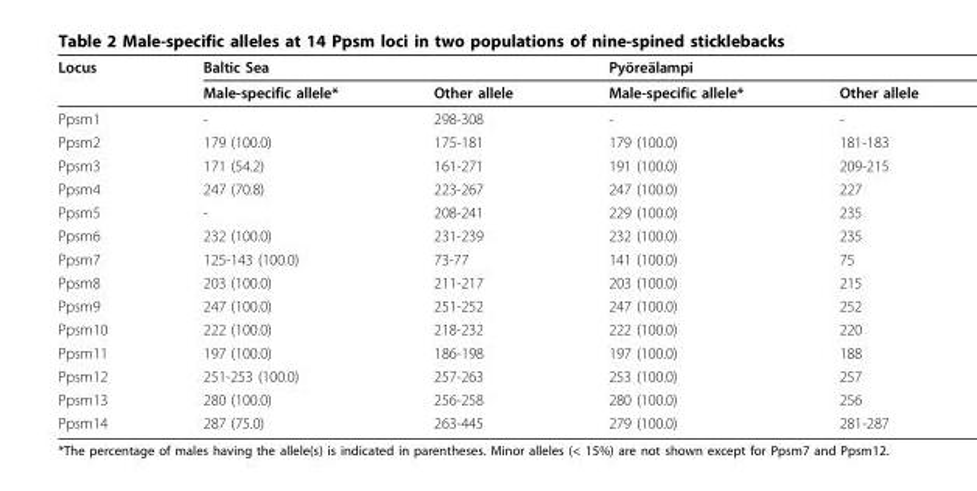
<table><thead><tr><td rowspan="2">Locus</td><td rowspan="2">Baltic Sea Male-specific allele*</td><td rowspan="2">Other allele</td><td rowspan="2">Pyöreälampi Male-specific allele*</td><td rowspan="2">Other allele</td></tr><tr></tr></thead><tbody><tr><td>Ppsm1</td><td>-</td><td>298-308</td><td>-</td><td>-</td></tr><tr><td>Ppsm2</td><td>179 (100.0)</td><td>175-181</td><td>179 (100.0)</td><td>181-183</td></tr><tr><td>Ppsm3</td><td>171 (54.2)</td><td>161-271</td><td>191 (100.0)</td><td>209-215</td></tr><tr><td>Ppsm4</td><td>247 (70.8)</td><td>223-267</td><td>247 (100.0)</td><td>227</td></tr><tr><td>Ppsm5</td><td>-</td><td>208-241</td><td>229 (100.0)</td><td>235</td></tr><tr><td>Ppsm6</td><td>232 (100.0)</td><td>231-239</td><td>232 (100.0)</td><td>235</td></tr><tr><td>Ppsm7</td><td>125-143 (100.0)</td><td>73-77</td><td>141 (100.0)</td><td>75</td></tr><tr><td>Ppsm8</td><td>203 (100.0)</td><td>211-217</td><td>203 (100.0)</td><td>215</td></tr><tr><td>Ppsm9</td><td>247 (100.0)</td><td>251-252</td><td>247 (100.0)</td><td>252</td></tr><tr><td>Ppsm10</td><td>222 (100.0)</td><td>218-232</td><td>222 (100.0)</td><td>220</td></tr><tr><td>Ppsm11</td><td>197 (100.0)</td><td>186-198</td><td>197 (100.0)</td><td>188</td></tr><tr><td>Ppsm12</td><td>251-253 (100.0)</td><td>257-263</td><td>253 (100.0)</td><td>257</td></tr><tr><td>Ppsm13</td><td>280 (100.0)</td><td>256-258</td><td>280 (100.0)</td><td>256</td></tr><tr><td>Ppsm14</td><td>287 (75.0)</td><td>263-445</td><td>279 (100.0)</td><td>281-287</td></tr></tbody></table>